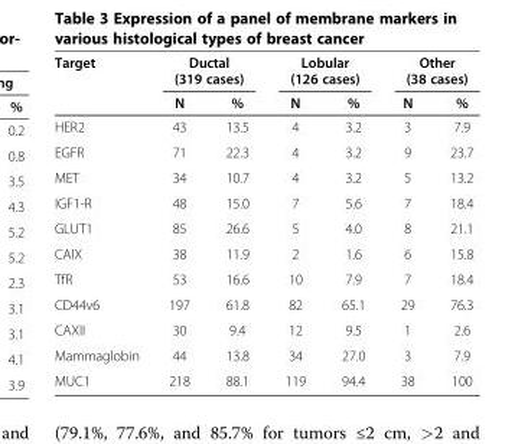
<table><thead><tr><td rowspan="2">Target</td><td colspan="2">Ductal (319 cases)</td><td colspan="2">Lobular (126 cases)</td><td colspan="2">Other (38 cases)</td></tr><tr><td>N</td><td>%</td><td>N</td><td>%</td><td>N</td><td>%</td></tr></thead><tbody><tr><td>HER2</td><td>43</td><td>13.5</td><td>4</td><td>3.2</td><td>3</td><td>7.9</td></tr><tr><td>EGFR</td><td>71</td><td>22.3</td><td>4</td><td>3.2</td><td>9</td><td>23.7</td></tr><tr><td>MET</td><td>34</td><td>10.7</td><td>4</td><td>3.2</td><td>5</td><td>13.2</td></tr><tr><td>IGF1-R</td><td>48</td><td>15.0</td><td>7</td><td>5.6</td><td>7</td><td>18.4</td></tr><tr><td>GLUT1</td><td>85</td><td>26.6</td><td>5</td><td>4.0</td><td>8</td><td>21.1</td></tr><tr><td>CAIX</td><td>38</td><td>11.9</td><td>2</td><td>1.6</td><td>6</td><td>15.8</td></tr><tr><td>TfR</td><td>53</td><td>16.6</td><td>10</td><td>7.9</td><td>7</td><td>18.4</td></tr><tr><td>CD44v6</td><td>197</td><td>61.8</td><td>82</td><td>65.1</td><td>29</td><td>76.3</td></tr><tr><td>CAXII</td><td>30</td><td>9.4</td><td>12</td><td>9.5</td><td>1</td><td>2.6</td></tr><tr><td>Mammaglobin</td><td>44</td><td>13.8</td><td>34</td><td>27.0</td><td>3</td><td>7.9</td></tr><tr><td>MUC1</td><td>218</td><td>88.1</td><td>119</td><td>94.4</td><td>38</td><td>100</td></tr></tbody></table>